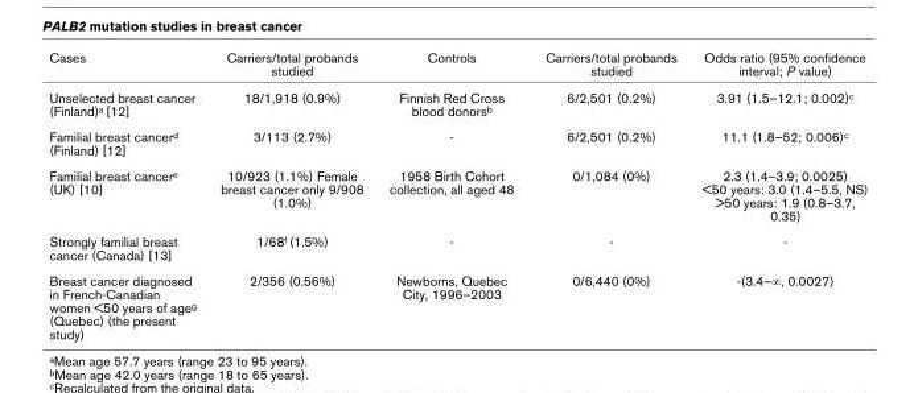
<table><thead><tr><td>Cases</td><td>Carriers/total probands studied</td><td>Controls</td><td>Carriers/total probands studied</td><td>Odds ratio (95% confidence interval; P value)</td></tr></thead><tbody><tr><td>Unselected breast cancer (Finland)<sup>a</sup> [12]</td><td>18/1,918 (0.9%)</td><td>Finnish Red Cross blood donors<sup>b</sup></td><td>6/2,501 (0.2%)</td><td>3.91 (1.5–12.1; 0.002)<sup>c</sup></td></tr><tr><td>Familial breast cancer<sup>d</sup> (Finland) [12]</td><td>3/113 (2.7%)</td><td>-</td><td>6/2,501 (0.2%)</td><td>11.1 (1.8–52; 0.006)<sup>c</sup></td></tr><tr><td>Familial breast cancer<sup>e</sup> (UK) [10]</td><td>10/923 (1.1%) Female breast cancer only 9/908 (1.0%)</td><td>1958 Birth Cohort collection, all aged 48</td><td>0/1,084 (0%)</td><td>2.3 (1.4–3.9; 0.0025) &lt;50 years: 3.0 (1.4–5.5, NS) &gt;50 years: 1.9 (0.8–3.7, 0.35)</td></tr><tr><td>Strongly familial breast cancer (Canada) [13]</td><td>1/68<sup>f</sup> (1.5%)</td><td>-</td><td>-</td><td>-</td></tr><tr><td>Breast cancer diagnosed in French-Canadian women &lt;50 years of age<sup>g</sup> (Quebec) (the present study)</td><td>2/356 (0.56%)</td><td>Newborns, Quebec City, 1996–2003</td><td>0/6,440 (0%)</td><td>-(3.4–∞, 0.0027)</td></tr></tbody></table>